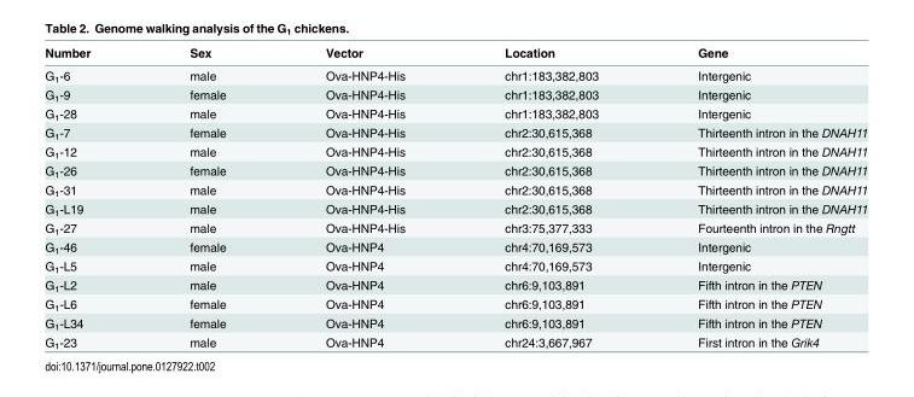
<table><thead><tr><td>Number</td><td>Sex</td><td>Vector</td><td>Location</td><td>Gene</td></tr></thead><tbody><tr><td>G<sub>1</sub>-6</td><td>male</td><td>Ova-HNP4-His</td><td>chr1:183,382,803</td><td>Intergenic</td></tr><tr><td>G<sub>1</sub>-9</td><td>female</td><td>Ova-HNP4-His</td><td>chr1:183,382,803</td><td>Intergenic</td></tr><tr><td>G<sub>1</sub>-28</td><td>male</td><td>Ova-HNP4-His</td><td>chr1:183,382,803</td><td>Intergenic</td></tr><tr><td>G<sub>1</sub>-7</td><td>female</td><td>Ova-HNP4-His</td><td>chr2:30,615,368</td><td>Thirteenth intron in the DNAH11</td></tr><tr><td>G<sub>1</sub>-12</td><td>male</td><td>Ova-HNP4-His</td><td>chr2:30,615,368</td><td>Thirteenth intron in the DNAH11</td></tr><tr><td>G<sub>1</sub>-26</td><td>female</td><td>Ova-HNP4-His</td><td>chr2:30,615,368</td><td>Thirteenth intron in the DNAH11</td></tr><tr><td>G<sub>1</sub>-31</td><td>male</td><td>Ova-HNP4-His</td><td>chr2:30,615,368</td><td>Thirteenth intron in the DNAH11</td></tr><tr><td>G<sub>1</sub>-L19</td><td>male</td><td>Ova-HNP4-His</td><td>chr2:30,615,368</td><td>Thirteenth intron in the DNAH11</td></tr><tr><td>G<sub>1</sub>-27</td><td>male</td><td>Ova-HNP4-His</td><td>chr3:75,377,333</td><td>Fourteenth intron in the Rngtt</td></tr><tr><td>G<sub>1</sub>-46</td><td>female</td><td>Ova-HNP4</td><td>chr4:70,169,573</td><td>Intergenic</td></tr><tr><td>G<sub>1</sub>-L5</td><td>male</td><td>Ova-HNP4</td><td>chr4:70,169,573</td><td>Intergenic</td></tr><tr><td>G<sub>1</sub>-L2</td><td>male</td><td>Ova-HNP4</td><td>chr6:9,103,891</td><td>Fifth intron in the PTEN</td></tr><tr><td>G<sub>1</sub>-L6</td><td>female</td><td>Ova-HNP4</td><td>chr6:9,103,891</td><td>Fifth intron in the PTEN</td></tr><tr><td>G<sub>1</sub>-L34</td><td>female</td><td>Ova-HNP4</td><td>chr6:9,103,891</td><td>Fifth intron in the PTEN</td></tr><tr><td>G<sub>1</sub>-23</td><td>male</td><td>Ova-HNP4</td><td>chr24:3,667,967</td><td>First intron in the Grik4</td></tr></tbody></table>